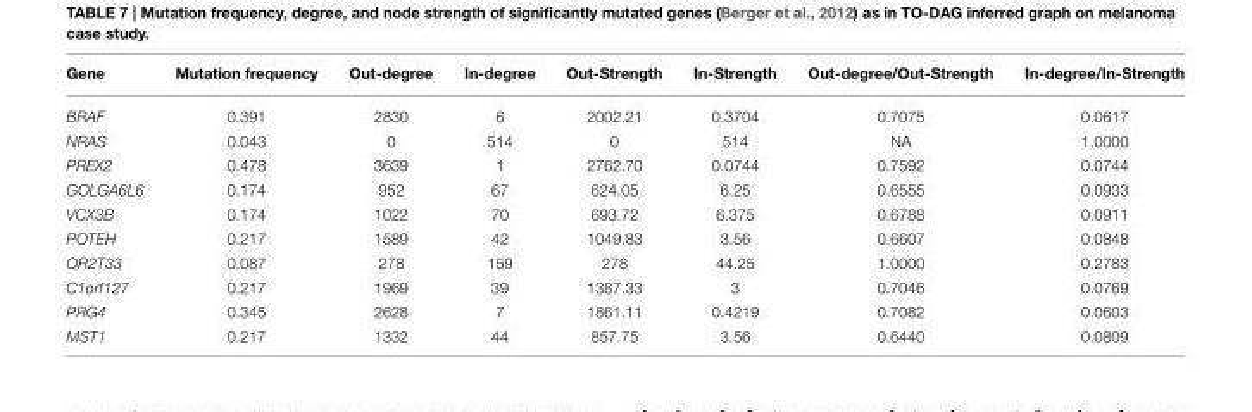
<table><thead><tr><td>Gene</td><td>Mutation frequency</td><td>Out-degree</td><td>In-degree</td><td>Out-Strength</td><td>In-Strength</td><td>Out-degree/Out-Strength</td><td>In-degree/In-Strength</td></tr></thead><tbody><tr><td>BRAF</td><td>0.391</td><td>2830</td><td>6</td><td>2002.21</td><td>0.3704</td><td>0.7075</td><td>0.0617</td></tr><tr><td>NRAS</td><td>0.043</td><td>0</td><td>514</td><td>0</td><td>514</td><td>NA</td><td>1.0000</td></tr><tr><td>PREX2</td><td>0.478</td><td>3639</td><td>1</td><td>2762.70</td><td>0.0744</td><td>0.7592</td><td>0.0744</td></tr><tr><td>GOLGA6L6</td><td>0.174</td><td>952</td><td>67</td><td>624.05</td><td>6.25</td><td>0.6555</td><td>0.0933</td></tr><tr><td>VCX3B</td><td>0.174</td><td>1022</td><td>70</td><td>693.72</td><td>6.375</td><td>0.6788</td><td>0.0911</td></tr><tr><td>POTEH</td><td>0.217</td><td>1589</td><td>42</td><td>1049.83</td><td>3.56</td><td>0.6607</td><td>0.0848</td></tr><tr><td>OR2T33</td><td>0.087</td><td>278</td><td>159</td><td>278</td><td>44.25</td><td>1.0000</td><td>0.2783</td></tr><tr><td>C1orf127</td><td>0.217</td><td>1969</td><td>39</td><td>1387.33</td><td>3</td><td>0.7046</td><td>0.0769</td></tr><tr><td>PRG4</td><td>0.345</td><td>2628</td><td>7</td><td>1861.11</td><td>0.4219</td><td>0.7082</td><td>0.0603</td></tr><tr><td>MST1</td><td>0.217</td><td>1332</td><td>44</td><td>857.75</td><td>3.56</td><td>0.6440</td><td>0.0809</td></tr></tbody></table>